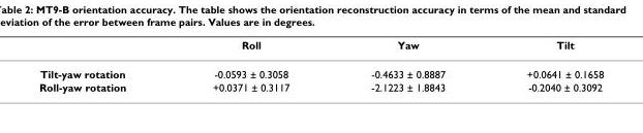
<table><thead><tr><td></td><td>Roll</td><td>Yaw</td><td>Tilt</td></tr></thead><tbody><tr><td>Tilt-yaw rotation</td><td>-0.0593 ± 0.3058</td><td>-0.4633 ± 0.8887</td><td>+0.0641 ± 0.1658</td></tr><tr><td>Roll-yaw rotation</td><td>+0.0371 ± 0.3117</td><td>-2.1223 ± 1.8843</td><td>-0.2040 ± 0.3092</td></tr></tbody></table>